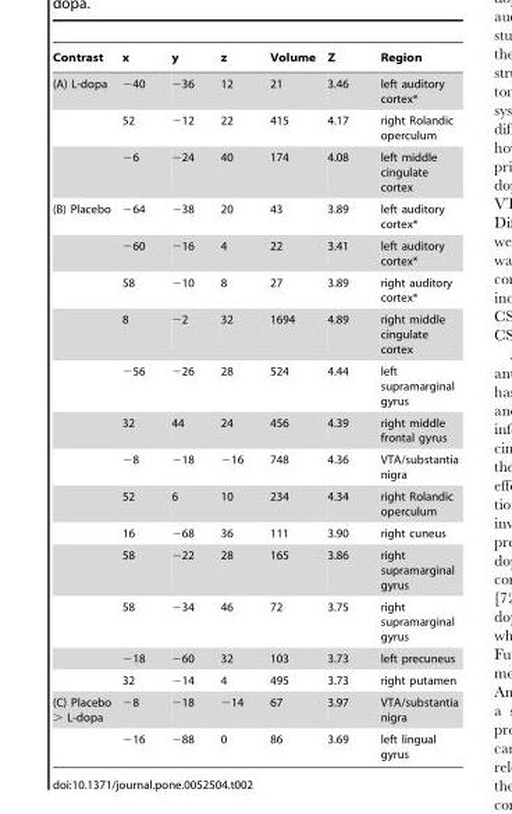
<table><thead><tr><td>Contrast</td><td>x</td><td>y</td><td>z</td><td>Volume</td><td>Z</td><td>Region</td></tr></thead><tbody><tr><td rowspan="3">(A) L-dopa</td><td>−40</td><td>−36</td><td>12</td><td>21</td><td>3.46</td><td>left auditory cortex*</td></tr><tr><td>52</td><td>−12</td><td>22</td><td>415</td><td>4.17</td><td>right Rolandic operculum</td></tr><tr><td>−6</td><td>−24</td><td>40</td><td>174</td><td>4.08</td><td>left middle cingulate cortex</td></tr><tr><td rowspan="13">(B) Placebo</td><td>−64</td><td>−38</td><td>20</td><td>43</td><td>3.89</td><td>left auditory cortex*</td></tr><tr><td>−60</td><td>−16</td><td>4</td><td>22</td><td>3.41</td><td>left auditory cortex*</td></tr><tr><td>58</td><td>−10</td><td>8</td><td>27</td><td>3.89</td><td>right auditory cortex*</td></tr><tr><td>8</td><td>−2</td><td>32</td><td>1694</td><td>4.89</td><td>right middle cingulate cortex</td></tr><tr><td>−56</td><td>−26</td><td>28</td><td>524</td><td>4.44</td><td>left supramarginal gyrus</td></tr><tr><td>32</td><td>44</td><td>24</td><td>456</td><td>4.39</td><td>right middle frontal gyrus</td></tr><tr><td>−8</td><td>−18</td><td>−16</td><td>748</td><td>4.36</td><td>VTA/substantia nigra</td></tr><tr><td>52</td><td>6</td><td>10</td><td>234</td><td>4.34</td><td>right Rolandic operculum</td></tr><tr><td>16</td><td>−68</td><td>36</td><td>111</td><td>3.90</td><td>right cuneus</td></tr><tr><td>58</td><td>−22</td><td>28</td><td>165</td><td>3.86</td><td>right supramarginal gyrus</td></tr><tr><td>58</td><td>−34</td><td>46</td><td>72</td><td>3.75</td><td>right supramarginal gyrus</td></tr><tr><td>−18</td><td>−60</td><td>32</td><td>103</td><td>3.73</td><td>left precuneus</td></tr><tr><td>32</td><td>−14</td><td>4</td><td>495</td><td>3.73</td><td>right putamen</td></tr><tr><td rowspan="2">(C) Placebo &gt; L-dopa</td><td>−8</td><td>−18</td><td>−14</td><td>67</td><td>3.97</td><td>VTA/substantia nigra</td></tr><tr><td>−16</td><td>−88</td><td>0</td><td>86</td><td>3.69</td><td>left lingual gyrus</td></tr></tbody></table>